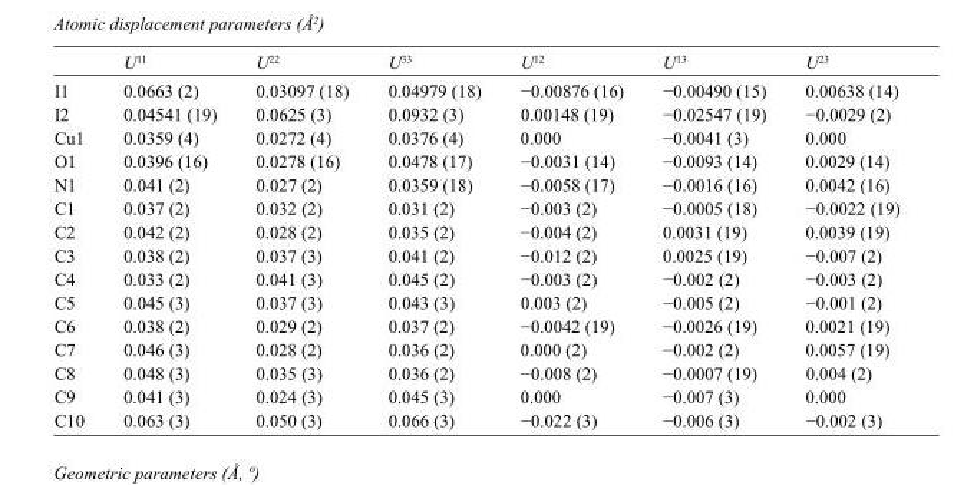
<table><thead><tr><td></td><td>U<sup>11</sup></td><td>U<sup>22</sup></td><td>U<sup>33</sup></td><td>U<sup>12</sup></td><td>U<sup>13</sup></td><td>U<sup>23</sup></td></tr></thead><tbody><tr><td>I1</td><td>0.0663 (2)</td><td>0.03097 (18)</td><td>0.04979 (18)</td><td>−0.00876 (16)</td><td>−0.00490 (15)</td><td>0.00638 (14)</td></tr><tr><td>I2</td><td>0.04541 (19)</td><td>0.0625 (3)</td><td>0.0932 (3)</td><td>0.00148 (19)</td><td>−0.02547 (19)</td><td>−0.0029 (2)</td></tr><tr><td>Cu1</td><td>0.0359 (4)</td><td>0.0272 (4)</td><td>0.0376 (4)</td><td>0.000</td><td>−0.0041 (3)</td><td>0.000</td></tr><tr><td>O1</td><td>0.0396 (16)</td><td>0.0278 (16)</td><td>0.0478 (17)</td><td>−0.0031 (14)</td><td>−0.0093 (14)</td><td>0.0029 (14)</td></tr><tr><td>N1</td><td>0.041 (2)</td><td>0.027 (2)</td><td>0.0359 (18)</td><td>−0.0058 (17)</td><td>−0.0016 (16)</td><td>0.0042 (16)</td></tr><tr><td>C1</td><td>0.037 (2)</td><td>0.032 (2)</td><td>0.031 (2)</td><td>−0.003 (2)</td><td>−0.0005 (18)</td><td>−0.0022 (19)</td></tr><tr><td>C2</td><td>0.042 (2)</td><td>0.028 (2)</td><td>0.035 (2)</td><td>−0.004 (2)</td><td>0.0031 (19)</td><td>0.0039 (19)</td></tr><tr><td>C3</td><td>0.038 (2)</td><td>0.037 (3)</td><td>0.041 (2)</td><td>−0.012 (2)</td><td>0.0025 (19)</td><td>−0.007 (2)</td></tr><tr><td>C4</td><td>0.033 (2)</td><td>0.041 (3)</td><td>0.045 (2)</td><td>−0.003 (2)</td><td>−0.002 (2)</td><td>−0.003 (2)</td></tr><tr><td>C5</td><td>0.045 (3)</td><td>0.037 (3)</td><td>0.043 (3)</td><td>0.003 (2)</td><td>−0.005 (2)</td><td>−0.001 (2)</td></tr><tr><td>C6</td><td>0.038 (2)</td><td>0.029 (2)</td><td>0.037 (2)</td><td>−0.0042 (19)</td><td>−0.0026 (19)</td><td>0.0021 (19)</td></tr><tr><td>C7</td><td>0.046 (3)</td><td>0.028 (2)</td><td>0.036 (2)</td><td>0.000 (2)</td><td>−0.002 (2)</td><td>0.0057 (19)</td></tr><tr><td>C8</td><td>0.048 (3)</td><td>0.035 (3)</td><td>0.036 (2)</td><td>−0.008 (2)</td><td>−0.0007 (19)</td><td>0.004 (2)</td></tr><tr><td>C9</td><td>0.041 (3)</td><td>0.024 (3)</td><td>0.045 (3)</td><td>0.000</td><td>−0.007 (3)</td><td>0.000</td></tr><tr><td>C10</td><td>0.063 (3)</td><td>0.050 (3)</td><td>0.066 (3)</td><td>−0.022 (3)</td><td>−0.006 (3)</td><td>−0.002 (3)</td></tr></tbody></table>